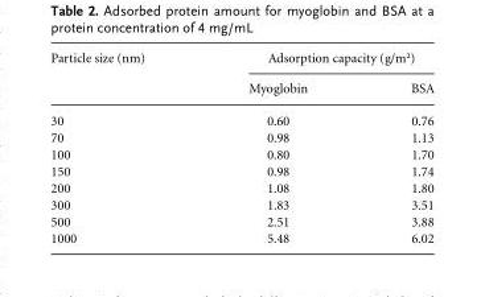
<table><thead><tr><td rowspan="2">Particle size (nm)</td><td colspan="2">Adsorption capacity (g/m²)</td></tr><tr><td>Myoglobin</td><td>BSA</td></tr></thead><tbody><tr><td>30</td><td>0.60</td><td>0.76</td></tr><tr><td>70</td><td>0.98</td><td>1.13</td></tr><tr><td>100</td><td>0.80</td><td>1.70</td></tr><tr><td>150</td><td>0.98</td><td>1.74</td></tr><tr><td>200</td><td>1.08</td><td>1.80</td></tr><tr><td>300</td><td>1.83</td><td>3.51</td></tr><tr><td>500</td><td>2.51</td><td>3.88</td></tr><tr><td>1000</td><td>5.48</td><td>6.02</td></tr></tbody></table>